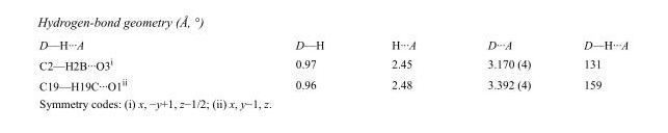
<table><tbody><tr><td>D—H···A</td><td>D—H</td><td>H···A</td><td>D···A</td><td>D—H···A</td></tr><tr><td>C2—H2B···O3<sup>i</sup></td><td>0.97</td><td>2.45</td><td>3.170 (4)</td><td>131</td></tr><tr><td>C19—H19C···O1<sup>ii</sup></td><td>0.96</td><td>2.48</td><td>3.392 (4)</td><td>159</td></tr></tbody></table>